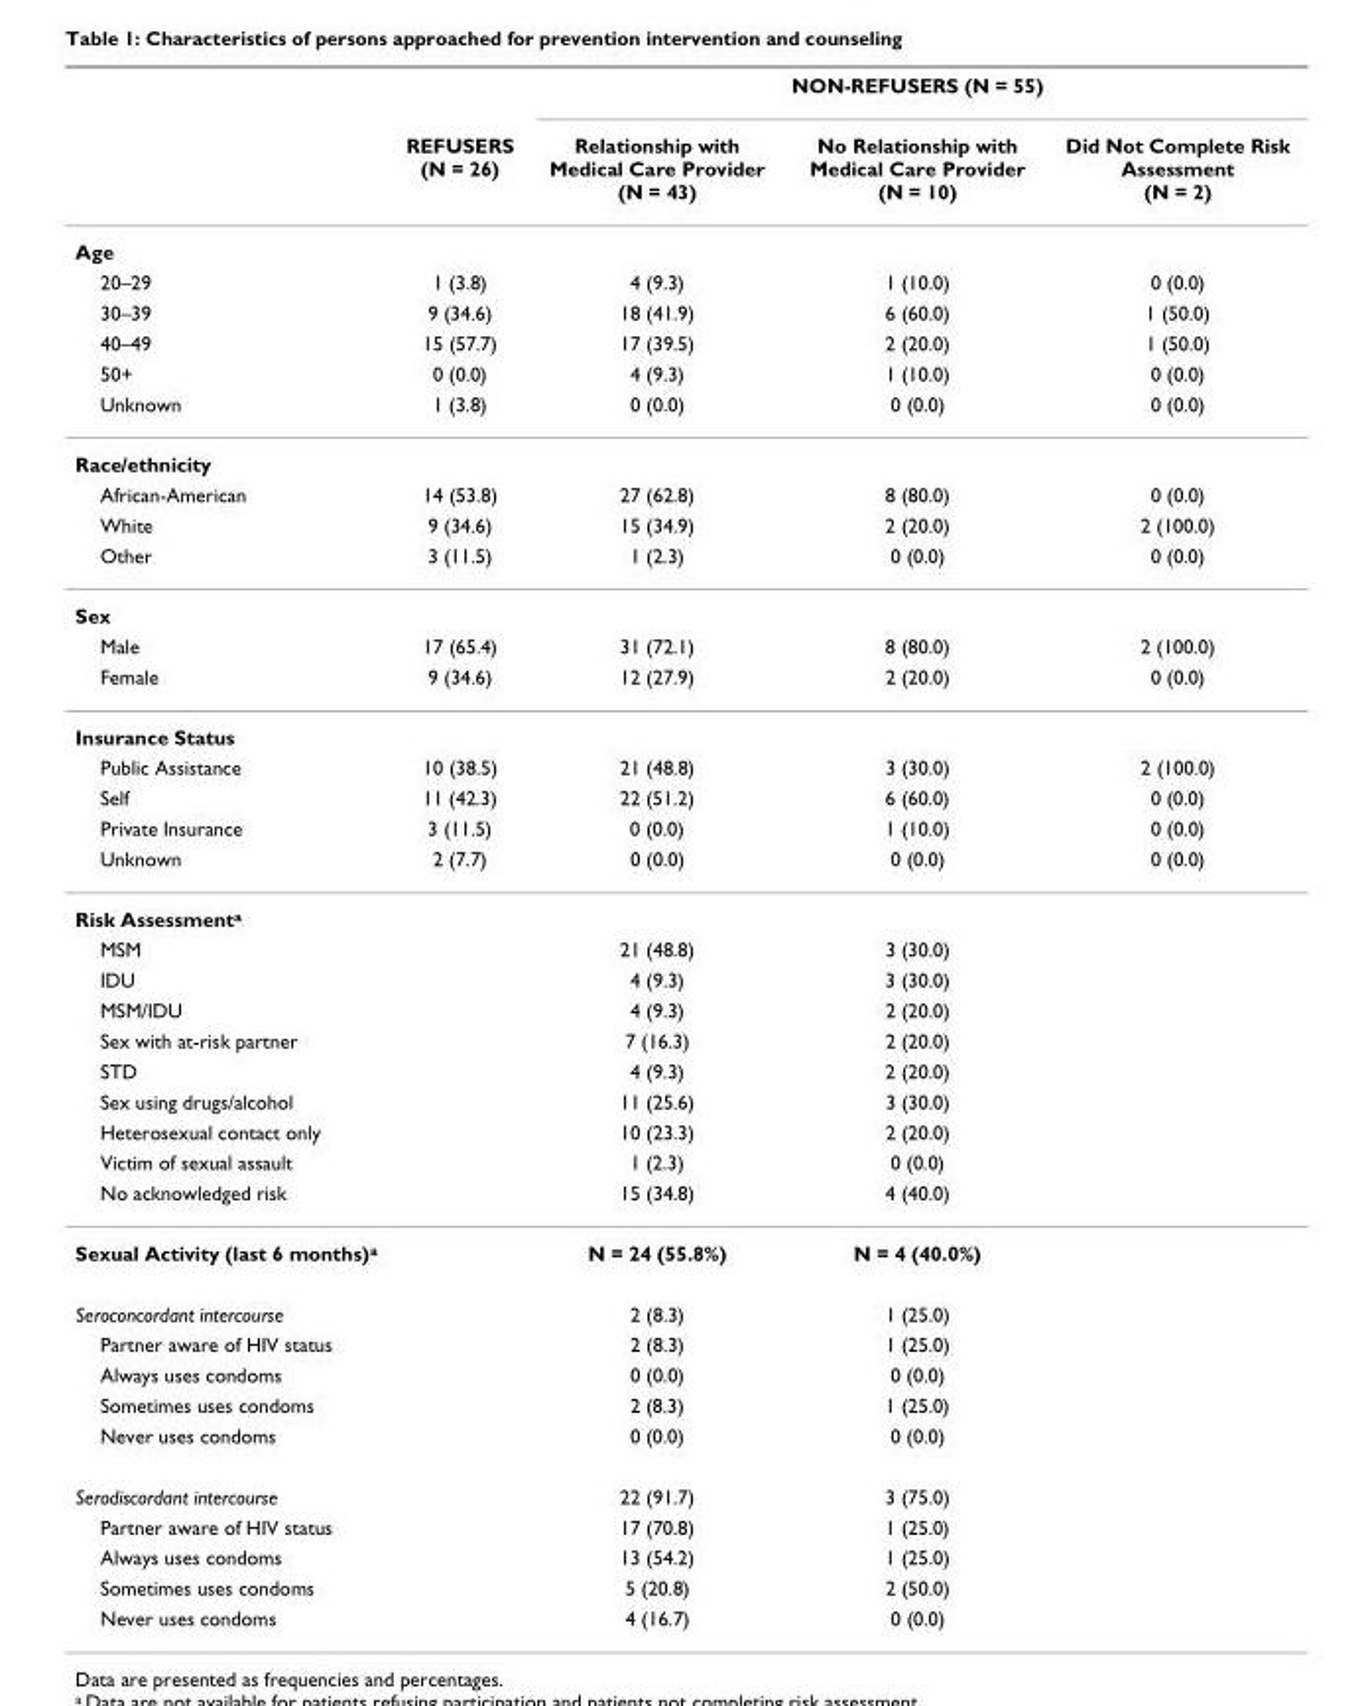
<table><thead><tr><td rowspan="2"></td><td rowspan="2">REFUSERS (N = 26)</td><td colspan="3">NON-REFUSERS (N = 55)</td></tr><tr><td>Relationship with Medical Care Provider (N = 43)</td><td>No Relationship with Medical Care Provider (N = 10)</td><td>Did Not Complete Risk Assessment (N = 2)</td></tr></thead><tbody><tr><td colspan="5">Age</td></tr><tr><td>20–29</td><td>1 (3.8)</td><td>4 (9.3)</td><td>1 (10.0)</td><td>0 (0.0)</td></tr><tr><td>30–39</td><td>9 (34.6)</td><td>18 (41.9)</td><td>6 (60.0)</td><td>1 (50.0)</td></tr><tr><td>40–49</td><td>15 (57.7)</td><td>17 (39.5)</td><td>2 (20.0)</td><td>1 (50.0)</td></tr><tr><td>50+</td><td>0 (0.0)</td><td>4 (9.3)</td><td>1 (10.0)</td><td>0 (0.0)</td></tr><tr><td>Unknown</td><td>1 (3.8)</td><td>0 (0.0)</td><td>0 (0.0)</td><td>0 (0.0)</td></tr><tr><td colspan="5">Race/ethnicity</td></tr><tr><td>African-American</td><td>14 (53.8)</td><td>27 (62.8)</td><td>8 (80.0)</td><td>0 (0.0)</td></tr><tr><td>White</td><td>9 (34.6)</td><td>15 (34.9)</td><td>2 (20.0)</td><td>2 (100.0)</td></tr><tr><td>Other</td><td>3 (11.5)</td><td>1 (2.3)</td><td>0 (0.0)</td><td>0 (0.0)</td></tr><tr><td colspan="5">Sex</td></tr><tr><td>Male</td><td>17 (65.4)</td><td>31 (72.1)</td><td>8 (80.0)</td><td>2 (100.0)</td></tr><tr><td>Female</td><td>9 (34.6)</td><td>12 (27.9)</td><td>2 (20.0)</td><td>0 (0.0)</td></tr><tr><td colspan="5">Insurance Status</td></tr><tr><td>Public Assistance</td><td>10 (38.5)</td><td>21 (48.8)</td><td>3 (30.0)</td><td>2 (100.0)</td></tr><tr><td>Self</td><td>11 (42.3)</td><td>22 (51.2)</td><td>6 (60.0)</td><td>0 (0.0)</td></tr><tr><td>Private Insurance</td><td>3 (11.5)</td><td>0 (0.0)</td><td>1 (10.0)</td><td>0 (0.0)</td></tr><tr><td>Unknown</td><td>2 (7.7)</td><td>0 (0.0)</td><td>0 (0.0)</td><td>0 (0.0)</td></tr><tr><td colspan="5">Risk Assessment<sup>a</sup></td></tr><tr><td>MSM</td><td></td><td>21 (48.8)</td><td>3 (30.0)</td><td></td></tr><tr><td>IDU</td><td></td><td>4 (9.3)</td><td>3 (30.0)</td><td></td></tr><tr><td>MSM/IDU</td><td></td><td>4 (9.3)</td><td>2 (20.0)</td><td></td></tr><tr><td>Sex with at-risk partner</td><td></td><td>7 (16.3)</td><td>2 (20.0)</td><td></td></tr><tr><td>STD</td><td></td><td>4 (9.3)</td><td>2 (20.0)</td><td></td></tr><tr><td>Sex using drugs/alcohol</td><td></td><td>11 (25.6)</td><td>3 (30.0)</td><td></td></tr><tr><td>Heterosexual contact only</td><td></td><td>10 (23.3)</td><td>2 (20.0)</td><td></td></tr><tr><td>Victim of sexual assault</td><td></td><td>1 (2.3)</td><td>0 (0.0)</td><td></td></tr><tr><td>No acknowledged risk</td><td></td><td>15 (34.8)</td><td>4 (40.0)</td><td></td></tr><tr><td>Sexual Activity (last 6 months)<sup>a</sup></td><td></td><td>N = 24 (55.8%)</td><td>N = 4 (40.0%)</td><td></td></tr><tr><td>Seroconcordant intercourse</td><td></td><td>2 (8.3)</td><td>1 (25.0)</td><td></td></tr><tr><td>Partner aware of HIV status</td><td></td><td>2 (8.3)</td><td>1 (25.0)</td><td></td></tr><tr><td>Always uses condoms</td><td></td><td>0 (0.0)</td><td>0 (0.0)</td><td></td></tr><tr><td>Sometimes uses condoms</td><td></td><td>2 (8.3)</td><td>1 (25.0)</td><td></td></tr><tr><td>Never uses condoms</td><td></td><td>0 (0.0)</td><td>0 (0.0)</td><td></td></tr><tr><td>Serodiscordant intercourse</td><td></td><td>22 (91.7)</td><td>3 (75.0)</td><td></td></tr><tr><td>Partner aware of HIV status</td><td></td><td>17 (70.8)</td><td>1 (25.0)</td><td></td></tr><tr><td>Always uses condoms</td><td></td><td>13 (54.2)</td><td>1 (25.0)</td><td></td></tr><tr><td>Sometimes uses condoms</td><td></td><td>5 (20.8)</td><td>2 (50.0)</td><td></td></tr><tr><td>Never uses condoms</td><td></td><td>4 (16.7)</td><td>0 (0.0)</td><td></td></tr></tbody></table>